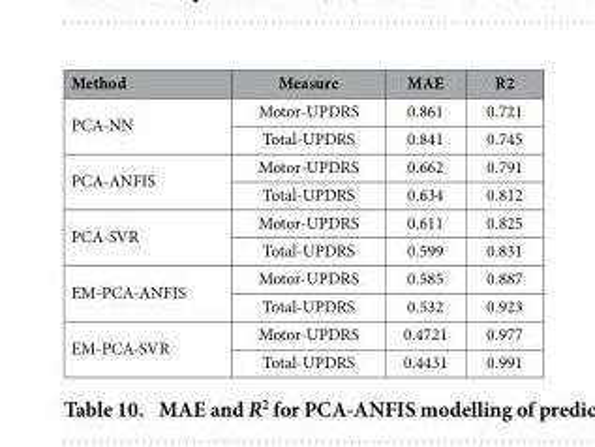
<table><thead><tr><td>Method</td><td>Measure</td><td>MAE</td><td>R2</td></tr></thead><tbody><tr><td rowspan="2">PCA-NN</td><td>Motor-UPDRS</td><td>0.861</td><td>0.721</td></tr><tr><td>Total-UPDRS</td><td>0.841</td><td>0.745</td></tr><tr><td rowspan="2">PCA-ANFIS</td><td>Motor-UPDRS</td><td>0.662</td><td>0.791</td></tr><tr><td>Total-UPDRS</td><td>0.634</td><td>0.812</td></tr><tr><td rowspan="2">PCA-SVR</td><td>Motor-UPDRS</td><td>0.611</td><td>0.825</td></tr><tr><td>Total-UPDRS</td><td>0.599</td><td>0.831</td></tr><tr><td rowspan="2">EM-PCA-ANFIS</td><td>Motor-UPDRS</td><td>0.585</td><td>0.887</td></tr><tr><td>Total-UPDRS</td><td>0.532</td><td>0.923</td></tr><tr><td rowspan="2">EM-PCA-SVR</td><td>Motor-UPDRS</td><td>0.4721</td><td>0.977</td></tr><tr><td>Total-UPDRS</td><td>0.4431</td><td>0.991</td></tr></tbody></table>